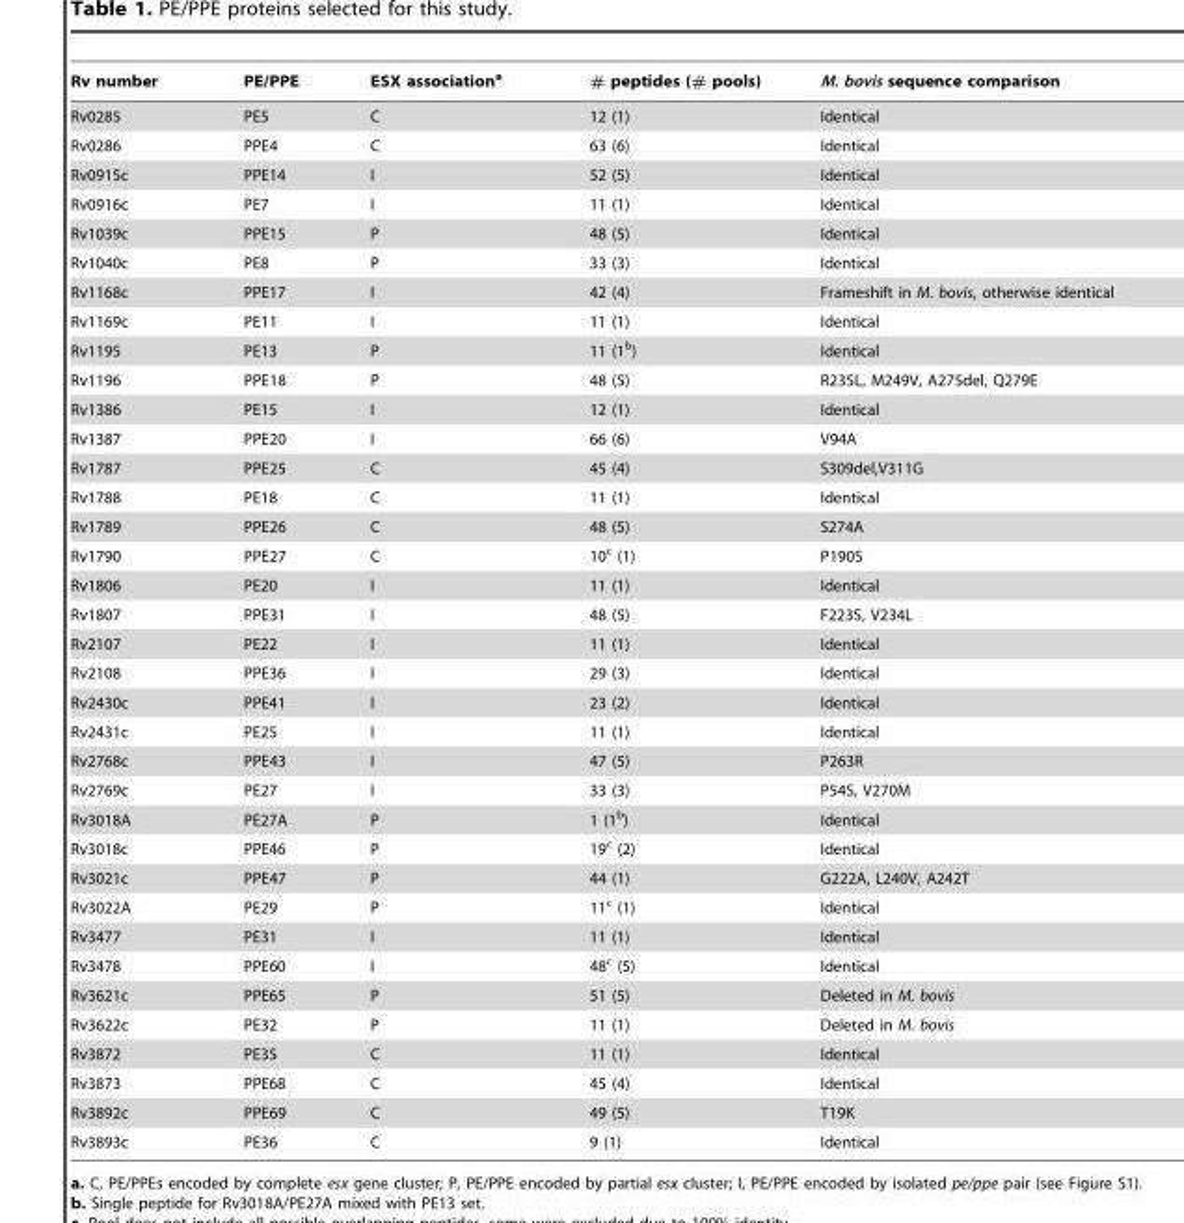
<table><thead><tr><td>Rv number</td><td>PE/PPE</td><td>ESX association<sup>a</sup></td><td># peptides (# pools)</td><td>M. bovis sequence comparison</td></tr></thead><tbody><tr><td>Rv0285</td><td>PE5</td><td>C</td><td>12 (1)</td><td>Identical</td></tr><tr><td>Rv0286</td><td>PPE4</td><td>C</td><td>63 (6)</td><td>Identical</td></tr><tr><td>Rv0915c</td><td>PPE14</td><td>I</td><td>52 (5)</td><td>Identical</td></tr><tr><td>Rv0916c</td><td>PE7</td><td>I</td><td>11 (1)</td><td>Identical</td></tr><tr><td>Rv1039c</td><td>PPE15</td><td>P</td><td>48 (5)</td><td>Identical</td></tr><tr><td>Rv1040c</td><td>PE8</td><td>P</td><td>33 (3)</td><td>Identical</td></tr><tr><td>Rv1168c</td><td>PPE17</td><td>I</td><td>42 (4)</td><td>Frameshift in M. bovis, otherwise identical</td></tr><tr><td>Rv1169c</td><td>PE11</td><td>I</td><td>11 (1)</td><td>Identical</td></tr><tr><td>Rv1195</td><td>PE13</td><td>P</td><td>11 (1<sup>b</sup>)</td><td>Identical</td></tr><tr><td>Rv1196</td><td>PPE18</td><td>P</td><td>48 (5)</td><td>R235L, M249V, A275del, Q279E</td></tr><tr><td>Rv1386</td><td>PE15</td><td>I</td><td>12 (1)</td><td>Identical</td></tr><tr><td>Rv1387</td><td>PPE20</td><td>I</td><td>66 (6)</td><td>V94A</td></tr><tr><td>Rv1787</td><td>PPE25</td><td>C</td><td>45 (4)</td><td>S309del,V311G</td></tr><tr><td>Rv1788</td><td>PE18</td><td>C</td><td>11 (1)</td><td>Identical</td></tr><tr><td>Rv1789</td><td>PPE26</td><td>C</td><td>48 (5)</td><td>S274A</td></tr><tr><td>Rv1790</td><td>PPE27</td><td>C</td><td>10<sup>c</sup> (1)</td><td>P190S</td></tr><tr><td>Rv1806</td><td>PE20</td><td>I</td><td>11 (1)</td><td>Identical</td></tr><tr><td>Rv1807</td><td>PPE31</td><td>I</td><td>48 (5)</td><td>F223S, V234L</td></tr><tr><td>Rv2107</td><td>PE22</td><td>I</td><td>11 (1)</td><td>Identical</td></tr><tr><td>Rv2108</td><td>PPE36</td><td>I</td><td>29 (3)</td><td>Identical</td></tr><tr><td>Rv2430c</td><td>PPE41</td><td>I</td><td>23 (2)</td><td>Identical</td></tr><tr><td>Rv2431c</td><td>PE25</td><td>I</td><td>11 (1)</td><td>Identical</td></tr><tr><td>Rv2768c</td><td>PPE43</td><td>I</td><td>47 (5)</td><td>P263R</td></tr><tr><td>Rv2769c</td><td>PE27</td><td>I</td><td>33 (3)</td><td>P54S, V270M</td></tr><tr><td>Rv3018A</td><td>PE27A</td><td>P</td><td>1 (1<sup>b</sup>)</td><td>Identical</td></tr><tr><td>Rv3018c</td><td>PPE46</td><td>P</td><td>19<sup>c</sup> (2)</td><td>Identical</td></tr><tr><td>Rv3021c</td><td>PPE47</td><td>P</td><td>44 (1)</td><td>G222A, L240V, A242T</td></tr><tr><td>Rv3022A</td><td>PE29</td><td>P</td><td>11<sup>c</sup> (1)</td><td>Identical</td></tr><tr><td>Rv3477</td><td>PE31</td><td>I</td><td>11 (1)</td><td>Identical</td></tr><tr><td>Rv3478</td><td>PPE60</td><td>I</td><td>48<sup>c</sup> (5)</td><td>Identical</td></tr><tr><td>Rv3621c</td><td>PPE65</td><td>P</td><td>51 (5)</td><td>Deleted in M. bovis</td></tr><tr><td>Rv3622c</td><td>PE32</td><td>P</td><td>11 (1)</td><td>Deleted in M. bovis</td></tr><tr><td>Rv3872</td><td>PE35</td><td>C</td><td>11 (1)</td><td>Identical</td></tr><tr><td>Rv3873</td><td>PPE68</td><td>C</td><td>45 (4)</td><td>Identical</td></tr><tr><td>Rv3892c</td><td>PPE69</td><td>C</td><td>49 (5)</td><td>T19K</td></tr><tr><td>Rv3893c</td><td>PE36</td><td>C</td><td>9 (1)</td><td>Identical</td></tr></tbody></table>